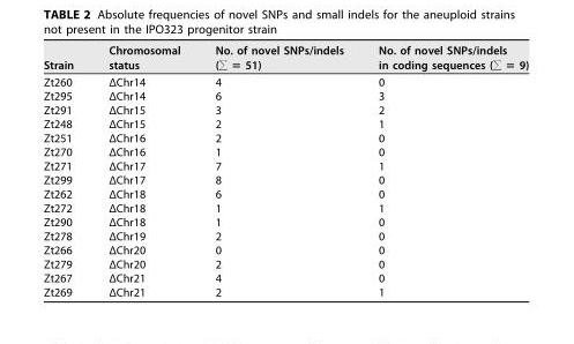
<table><thead><tr><td>Strain</td><td>Chromosomal status</td><td>No. of novel SNPs/indels (∑ = 51)</td><td>No. of novel SNPs/indels in coding sequences (∑ = 9)</td></tr></thead><tbody><tr><td>Zt260</td><td>ΔChr14</td><td>4</td><td>0</td></tr><tr><td>Zt295</td><td>ΔChr14</td><td>6</td><td>3</td></tr><tr><td>Zt291</td><td>ΔChr15</td><td>3</td><td>2</td></tr><tr><td>Zt248</td><td>ΔChr15</td><td>2</td><td>1</td></tr><tr><td>Zt251</td><td>ΔChr16</td><td>2</td><td>0</td></tr><tr><td>Zt270</td><td>ΔChr16</td><td>1</td><td>0</td></tr><tr><td>Zt271</td><td>ΔChr17</td><td>7</td><td>1</td></tr><tr><td>Zt299</td><td>ΔChr17</td><td>8</td><td>0</td></tr><tr><td>Zt262</td><td>ΔChr18</td><td>6</td><td>0</td></tr><tr><td>Zt272</td><td>ΔChr18</td><td>1</td><td>1</td></tr><tr><td>Zt290</td><td>ΔChr18</td><td>1</td><td>0</td></tr><tr><td>Zt278</td><td>ΔChr19</td><td>2</td><td>0</td></tr><tr><td>Zt266</td><td>ΔChr20</td><td>0</td><td>0</td></tr><tr><td>Zt279</td><td>ΔChr20</td><td>2</td><td>0</td></tr><tr><td>Zt267</td><td>ΔChr21</td><td>4</td><td>0</td></tr><tr><td>Zt269</td><td>ΔChr21</td><td>2</td><td>1</td></tr></tbody></table>